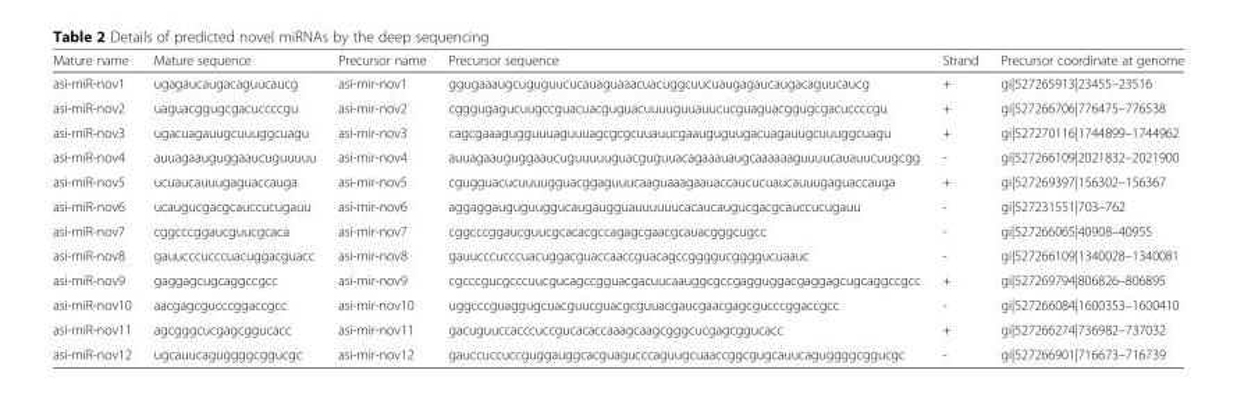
<table><thead><tr><td>Mature name</td><td>Mature sequence</td><td>Precursor name</td><td>Precursor sequence</td><td>Strand</td><td>Precursor coordinate at genome</td></tr></thead><tbody><tr><td>asi-miR-nov1</td><td>ugagaucaugacaguucaucg</td><td>asi-mir-nov1</td><td>ggugaaaugcuguguucucauaguaaacuacuggcuucuaugagaucaugacaguucaucg</td><td>+</td><td>gi|527265913|23455–23516</td></tr><tr><td>asi-miR-nov2</td><td>uaguacggugcgacuccccgu</td><td>asi-mir-nov2</td><td>cgggugagucuugccguacuacguguacuuuuguuauucucguaguacggugcgacuccccgu</td><td>+</td><td>gi|527266706|776475–776538</td></tr><tr><td>asi-miR-nov3</td><td>ugacuagauugcuuuggcuagu</td><td>asi-mir-nov3</td><td>cagcgaaagugguuuaguuuagcgcgcuuauucgaauguguugacuagauugcuuuggcuagu</td><td>+</td><td>gi|527270116|1744899–1744962</td></tr><tr><td>asi-miR-nov4</td><td>auuagaauguggaaucuguuuuu</td><td>asi-mir-nov4</td><td>auuagaauguggaaucuguuuuuguacguguuacagaaauaugcaaaaaaguuuucauauucuugcgg</td><td>-</td><td>gi|527266109|2021832–2021900</td></tr><tr><td>asi-miR-nov5</td><td>ucuaucauuugaguaccauga</td><td>asi-mir-nov5</td><td>cgugguacucuuuugguacggaguuucaaguaaagaauaccaucucuaucauuugaguaccauga</td><td>+</td><td>gi|527269397|156302–156367</td></tr><tr><td>asi-miR-nov6</td><td>ucaugucgacgcauccucugauu</td><td>asi-mir-nov6</td><td>aggaggauguguuggucaugaugguauuuuuucacaucaugucgacgcauccucugauu</td><td>-</td><td>gi|527231551|703–762</td></tr><tr><td>asi-miR-nov7</td><td>cggcccggaucguucgcaca</td><td>asi-mir-nov7</td><td>cggcccggaucguucgcacacgccagagcgaacgcauacgggcugcc</td><td>-</td><td>gi|527266065|40908–40955</td></tr><tr><td>asi-miR-nov8</td><td>gauucccucccuacuggacguacc</td><td>asi-mir-nov8</td><td>gauucccucccuacuggacguaccaaccguacagccggggucggggucuaauc</td><td>-</td><td>gi|527266109|1340028–1340081</td></tr><tr><td>asi-miR-nov9</td><td>gaggagcugcaggccgcc</td><td>asi-mir-nov9</td><td>cgcccgucgcccuucgucagccgguacgacuucaauggcgccgagguggacgaggagcugcaggccgcc</td><td>+</td><td>gi|527269794|806826–806895</td></tr><tr><td>asi-miR-nov10</td><td>aacgagcgucccggaccgcc</td><td>asi-mir-nov10</td><td>uggcccguaggugcuacguucguacgcguuacgaucgaacgagcgucccggaccgcc</td><td>-</td><td>gi|527266084|1600353–1600410</td></tr><tr><td>asi-miR-nov11</td><td>agcgggcucgagcggucacc</td><td>asi-mir-nov11</td><td>gacuguuccacccuccgucacaccaaagcaagcgggcucgagcggucacc</td><td>+</td><td>gi|527266274|736982–737032</td></tr><tr><td>asi-miR-nov12</td><td>ugcauucaguggggcggucgc</td><td>asi-mir-nov12</td><td>gauccuccuccguggauggcacguagucccaguugcuaaccggcgugcauucaguggggcggucgc</td><td>-</td><td>gi|527266901|716673–716739</td></tr></tbody></table>